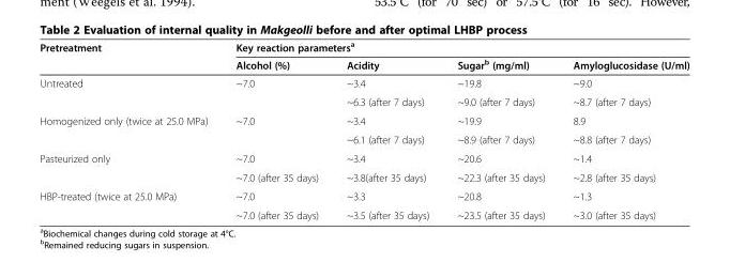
<table><thead><tr><td rowspan="2">Pretreatment</td><td colspan="4">Key reaction parameters<sup>a</sup></td></tr><tr><td>Alcohol (%)</td><td>Acidity</td><td>Sugar<sup>b</sup> (mg/ml)</td><td>Amyloglucosidase (U/ml)</td></tr></thead><tbody><tr><td rowspan="2">Untreated</td><td rowspan="2">~7.0</td><td>~3.4</td><td>~19.8</td><td>~9.0</td></tr><tr><td>~6.3 (after 7 days)</td><td>~9.0 (after 7 days)</td><td>~8.7 (after 7 days)</td></tr><tr><td rowspan="2">Homogenized only (twice at 25.0 MPa)</td><td rowspan="2">~7.0</td><td>~3.4</td><td>~19.9</td><td>8.9</td></tr><tr><td>~6.1 (after 7 days)</td><td>~8.9 (after 7 days)</td><td>~8.8 (after 7 days)</td></tr><tr><td rowspan="2">Pasteurized only</td><td>~7.0</td><td>~3.4</td><td>~20.6</td><td>~1.4</td></tr><tr><td>~7.0 (after 35 days)</td><td>~3.8(after 35 days)</td><td>~22.3 (after 35 days)</td><td>~2.8 (after 35 days)</td></tr><tr><td rowspan="2">HBP-treated (twice at 25.0 MPa)</td><td>~7.0</td><td>~3.3</td><td>~20.8</td><td>~1.3</td></tr><tr><td>~7.0 (after 35 days)</td><td>~3.5 (after 35 days)</td><td>~23.5 (after 35 days)</td><td>~3.0 (after 35 days)</td></tr></tbody></table>